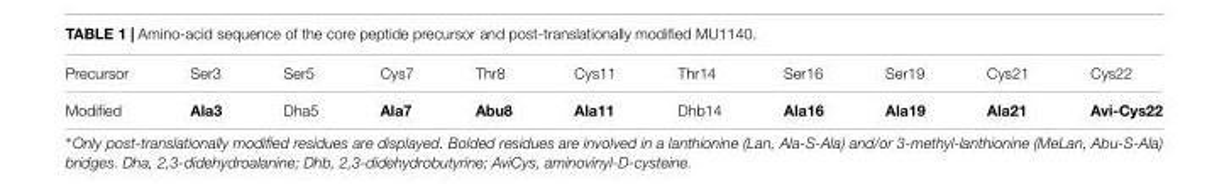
<table><tbody><tr><td>Precursor</td><td>Ser3</td><td>Ser5</td><td>Cys7</td><td>Thr8</td><td>Cys11</td><td>Thr14</td><td>Ser16</td><td>Ser19</td><td>Cys21</td><td>Cys22</td></tr><tr><td>Modified</td><td>Ala3</td><td>Dha5</td><td>Ala7</td><td>Abu8</td><td>Ala11</td><td>Dhb14</td><td>Ala16</td><td>Ala19</td><td>Ala21</td><td>Avi-Cys22</td></tr></tbody></table>